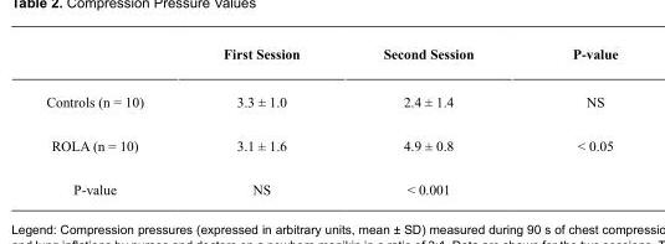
<table><thead><tr><td></td><td>First Session</td><td>Second Session</td><td>P-value</td></tr></thead><tbody><tr><td>Controls (n = 10)</td><td>3.3 ± 1.0</td><td>2.4 ± 1.4</td><td>NS</td></tr><tr><td>ROLA (n = 10)</td><td>3.1 ± 1.6</td><td>4.9 ± 0.8</td><td>&lt; 0.05</td></tr><tr><td>P-value</td><td>NS</td><td>&lt; 0.001</td><td></td></tr></tbody></table>